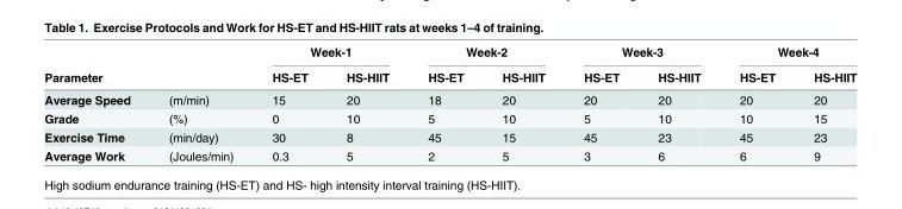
<table><thead><tr><td rowspan="2">Parameter</td><td rowspan="2"></td><td colspan="2">Week-1</td><td colspan="2">Week-2</td><td colspan="2">Week-3</td><td colspan="2">Week-4</td></tr><tr><td>HS-ET</td><td>HS-HIIT</td><td>HS-ET</td><td>HS-HIIT</td><td>HS-ET</td><td>HS-HIIT</td><td>HS-ET</td><td>HS-HIIT</td></tr></thead><tbody><tr><td>Average Speed</td><td>(m/min)</td><td>15</td><td>20</td><td>18</td><td>20</td><td>20</td><td>20</td><td>20</td><td>20</td></tr><tr><td>Grade</td><td>(%)</td><td>0</td><td>10</td><td>5</td><td>10</td><td>5</td><td>10</td><td>10</td><td>15</td></tr><tr><td>Exercise Time</td><td>(min/day)</td><td>30</td><td>8</td><td>45</td><td>15</td><td>45</td><td>23</td><td>45</td><td>23</td></tr><tr><td>Average Work</td><td>(Joules/min)</td><td>0.3</td><td>5</td><td>2</td><td>5</td><td>3</td><td>6</td><td>6</td><td>9</td></tr></tbody></table>